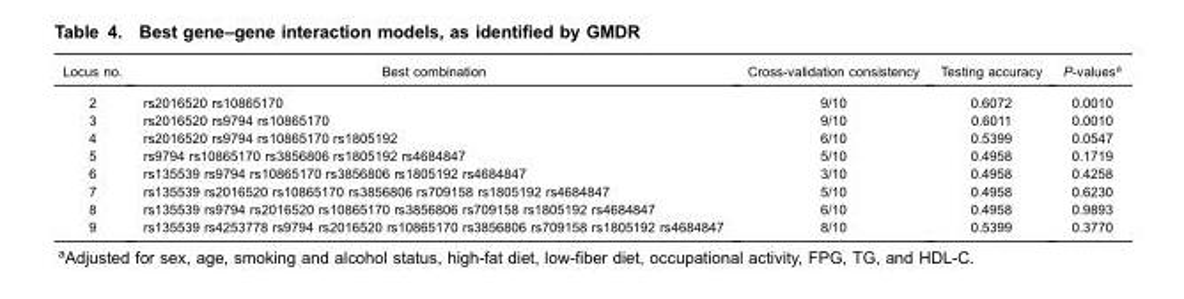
<table><thead><tr><td>Locus no.</td><td>Best combination</td><td>Cross-validation consistency</td><td>Testing accuracy</td><td>P-values<sup>a</sup></td></tr></thead><tbody><tr><td>2</td><td>rs2016520 rs10865170</td><td>9/10</td><td>0.6072</td><td>0.0010</td></tr><tr><td>3</td><td>rs2016520 rs9794 rs10865170</td><td>9/10</td><td>0.6011</td><td>0.0010</td></tr><tr><td>4</td><td>rs2016520 rs9794 rs10865170 rs1805192</td><td>6/10</td><td>0.5399</td><td>0.0547</td></tr><tr><td>5</td><td>rs9794 rs10865170 rs3856806 rs1805192 rs4684847</td><td>5/10</td><td>0.4958</td><td>0.1719</td></tr><tr><td>6</td><td>rs135539 rs9794 rs10865170 rs3856806 rs1805192 rs4684847</td><td>3/10</td><td>0.4958</td><td>0.4258</td></tr><tr><td>7</td><td>rs135539 rs2016520 rs10865170 rs3856806 rs709158 rs1805192 rs4684847</td><td>5/10</td><td>0.4958</td><td>0.6230</td></tr><tr><td>8</td><td>rs135539 rs9794 rs2016520 rs10865170 rs3856806 rs709158 rs1805192 rs4684847</td><td>6/10</td><td>0.4958</td><td>0.9893</td></tr><tr><td>9</td><td>rs135539 rs4253778 rs9794 rs2016520 rs10865170 rs3856806 rs709158 rs1805192 rs4684847</td><td>8/10</td><td>0.5399</td><td>0.3770</td></tr></tbody></table>